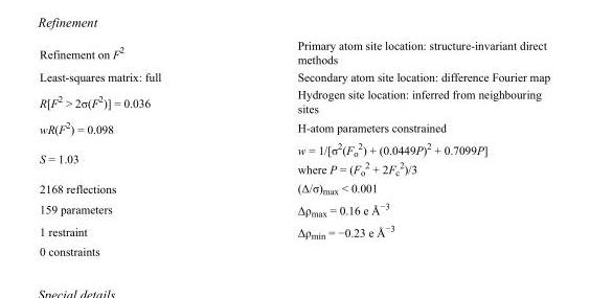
<table><tbody><tr><td>Refinement on F<sup>2</sup></td><td>Primary atom site location: structure-invariant direct methods</td></tr><tr><td>Least-squares matrix: full</td><td>Secondary atom site location: difference Fourier map</td></tr><tr><td>R[F<sup>2</sup> &gt; 2σ(F<sup>2</sup>)] = 0.036</td><td>Hydrogen site location: inferred from neighbouring sites</td></tr><tr><td>wR(F<sup>2</sup>) = 0.098</td><td>H-atom parameters constrained</td></tr><tr><td>S = 1.03</td><td>w = 1/[σ<sup>2</sup>(F<sub>o</sub> <sup>2</sup>) + (0.0449P)<sup>2</sup> + 0.7099P] where P = (F<sub>o</sub> <sup>2</sup> + 2F<sub>c</sub> <sup>2</sup>)/3</td></tr><tr><td>2168 reflections</td><td>(Δ/σ)<sub>max</sub> &lt; 0.001</td></tr><tr><td>159 parameters</td><td>Δρ<sub>max</sub> = 0.16 e Å<sup>−3</sup></td></tr><tr><td>1 restraint</td><td>Δρ<sub>min</sub> = −0.23 e Å<sup>−3</sup></td></tr><tr><td>0 constraints</td><td></td></tr></tbody></table>